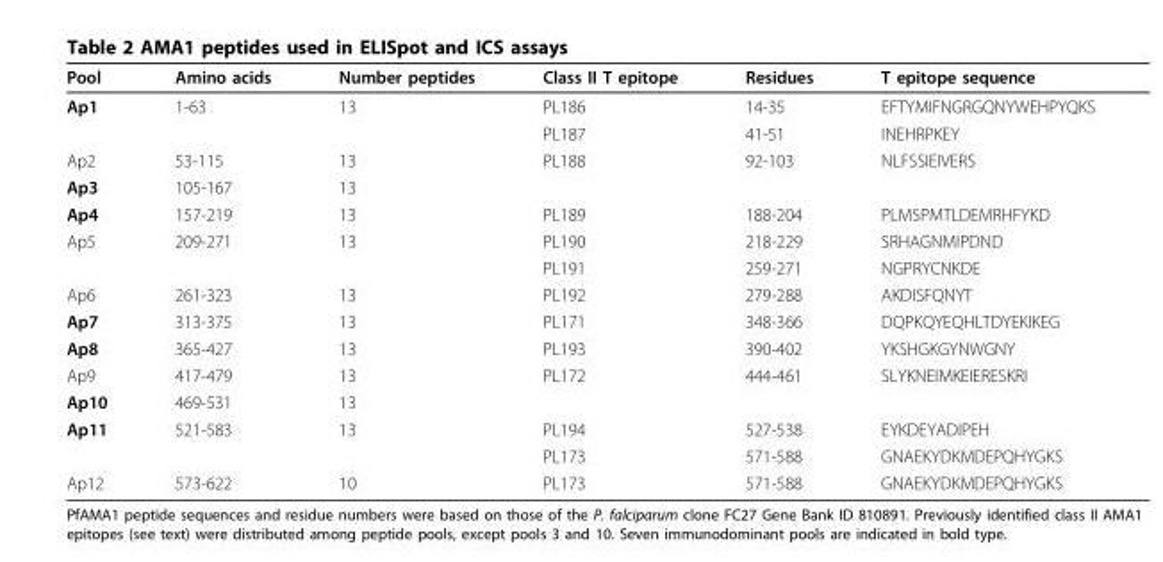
<table><thead><tr><td>Pool</td><td>Amino acids</td><td>Number peptides</td><td>Class II T epitope</td><td>Residues</td><td>T epitope sequence</td></tr></thead><tbody><tr><td rowspan="2">Ap1</td><td>1-63</td><td>13</td><td>PL186</td><td>14-35</td><td>EFTYMIFNGRGQNYWEHPYQKS</td></tr><tr><td></td><td></td><td>PL187</td><td>41-51</td><td>INEHRPKEY</td></tr><tr><td>Ap2</td><td>53-115</td><td>13</td><td>PL188</td><td>92-103</td><td>NLFSSIEIVERS</td></tr><tr><td>Ap3</td><td>105-167</td><td>13</td><td></td><td></td><td></td></tr><tr><td>Ap4</td><td>157-219</td><td>13</td><td>PL189</td><td>188-204</td><td>PLMSPMTLDEMRHFYKD</td></tr><tr><td rowspan="2">Ap5</td><td>209-271</td><td>13</td><td>PL190</td><td>218-229</td><td>SRHAGNMIPDND</td></tr><tr><td></td><td></td><td>PL191</td><td>259-271</td><td>NGPRYCNKDE</td></tr><tr><td>Ap6</td><td>261-323</td><td>13</td><td>PL192</td><td>279-288</td><td>AKDISFQNYT</td></tr><tr><td>Ap7</td><td>313-375</td><td>13</td><td>PL171</td><td>348-366</td><td>DQPKQYEQHLTDYEKIKEG</td></tr><tr><td>Ap8</td><td>365-427</td><td>13</td><td>PL193</td><td>390-402</td><td>YKSHGKGYNWGNY</td></tr><tr><td>Ap9</td><td>417-479</td><td>13</td><td>PL172</td><td>444-461</td><td>SLYKNEIMKEIERESKRI</td></tr><tr><td>Ap10</td><td>469-531</td><td>13</td><td></td><td></td><td></td></tr><tr><td rowspan="2">Ap11</td><td>521-583</td><td>13</td><td>PL194</td><td>527-538</td><td>EYKDEYADIPEH</td></tr><tr><td></td><td></td><td>PL173</td><td>571-588</td><td>GNAEKYDKMDEPQHYGKS</td></tr><tr><td>Ap12</td><td>573-622</td><td>10</td><td>PL173</td><td>571-588</td><td>GNAEKYDKMDEPQHYGKS</td></tr></tbody></table>